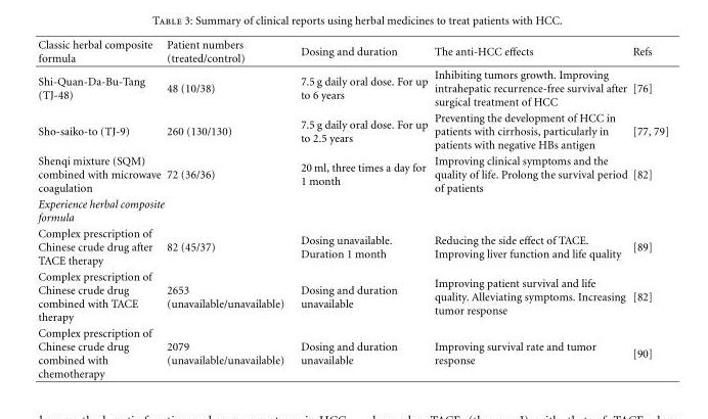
<table><thead><tr><td>Classic herbal composite formula</td><td>Patient numbers (treated/control)</td><td>Dosing and duration</td><td>The anti-HCC effects</td><td>Refs</td></tr></thead><tbody><tr><td>Shi-Quan-Da-Bu-Tang (TJ-48)</td><td>48 (10/38)</td><td>7.5 g daily oral dose. For up to 6 years</td><td>Inhibiting tumors growth. Improving intrahepatic recurrence-free survival after surgical treatment of HCC</td><td>[76]</td></tr><tr><td>Sho-saiko-to (TJ-9)</td><td>260 (130/130)</td><td>7.5 g daily oral dose. For up to 2.5 years</td><td>Preventing the development of HCC in patients with cirrhosis, particularly in patients with negative HBs antigen</td><td>[77, 79]</td></tr><tr><td>Shenqi mixture (SQM) combined with microwave coagulation</td><td>72 (36/36)</td><td>20 ml, three times a day for 1 month</td><td>Improving clinical symptoms and the quality of life. Prolong the survival period of patients</td><td>[82]</td></tr><tr><td colspan="5">Experience herbal composite formula</td></tr><tr><td>Complex prescription of Chinese crude drug after TACE therapy</td><td>82 (45/37)</td><td>Dosing unavailable. Duration 1 month</td><td>Reducing the side effect of TACE. Improving liver function and life quality</td><td>[89]</td></tr><tr><td>Complex prescription of Chinese crude drug combined with TACE therapy</td><td>2653 (unavailable/unavailable)</td><td>Dosing and duration unavailable</td><td>Improving patient survival and life quality. Alleviating symptoms. Increasing tumor response</td><td>[82]</td></tr><tr><td>Complex prescription of Chinese crude drug combined with chemotherapy</td><td>2079 (unavailable/unavailable)</td><td>Dosing and duration unavailable</td><td>Improving survival rate and tumor response</td><td>[90]</td></tr></tbody></table>